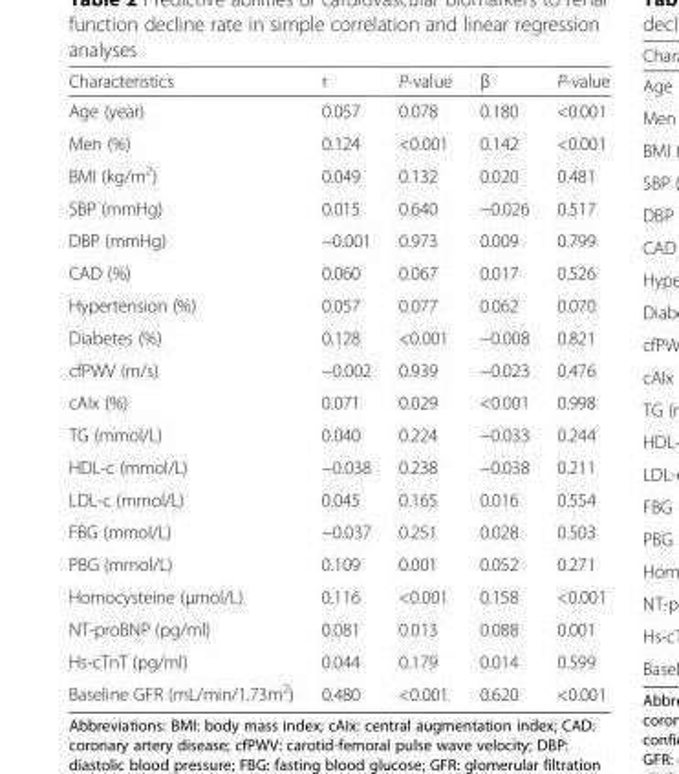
<table><thead><tr><td>Characteristics</td><td>r</td><td>P-value</td><td>β</td><td>P-value</td></tr></thead><tbody><tr><td>Age (year)</td><td>0.057</td><td>0.078</td><td>0.180</td><td>&lt;0.001</td></tr><tr><td>Men (%)</td><td>0.124</td><td>&lt;0.001</td><td>0.142</td><td>&lt;0.001</td></tr><tr><td>BMI (kg/m<sup>2</sup>)</td><td>0.049</td><td>0.132</td><td>0.020</td><td>0.481</td></tr><tr><td>SBP (mmHg)</td><td>0.015</td><td>0.640</td><td>−0.026</td><td>0.517</td></tr><tr><td>DBP (mmHg)</td><td>−0.001</td><td>0.973</td><td>0.009</td><td>0.799</td></tr><tr><td>CAD (%)</td><td>0.060</td><td>0.067</td><td>0.017</td><td>0.526</td></tr><tr><td>Hypertension (%)</td><td>0.057</td><td>0.077</td><td>0.062</td><td>0.070</td></tr><tr><td>Diabetes (%)</td><td>0.128</td><td>&lt;0.001</td><td>−0.008</td><td>0.821</td></tr><tr><td>cfPWV (m/s)</td><td>−0.002</td><td>0.939</td><td>−0.023</td><td>0.476</td></tr><tr><td>cAIx (%)</td><td>0.071</td><td>0.029</td><td>&lt;0.001</td><td>0.998</td></tr><tr><td>TG (mmol/L)</td><td>0.040</td><td>0.224</td><td>−0.033</td><td>0.244</td></tr><tr><td>HDL-c (mmol/L)</td><td>−0.038</td><td>0.238</td><td>−0.038</td><td>0.211</td></tr><tr><td>LDL-c (mmol/L)</td><td>0.045</td><td>0.165</td><td>0.016</td><td>0.554</td></tr><tr><td>FBG (mmol/L)</td><td>−0.037</td><td>0.251</td><td>0.028</td><td>0.503</td></tr><tr><td>PBG (mmol/L)</td><td>0.109</td><td>0.001</td><td>0.052</td><td>0.271</td></tr><tr><td>Homocysteine (μmol/L)</td><td>0.116</td><td>&lt;0.001</td><td>0.158</td><td>&lt;0.001</td></tr><tr><td>NT-proBNP (pg/ml)</td><td>0.081</td><td>0.013</td><td>0.088</td><td>0.001</td></tr><tr><td>Hs-cTnT (pg/ml)</td><td>0.044</td><td>0.179</td><td>0.014</td><td>0.599</td></tr><tr><td>Baseline GFR (mL/min/1.73m<sup>2</sup>)</td><td>0.480</td><td>&lt;0.001</td><td>0.620</td><td>&lt;0.001</td></tr></tbody></table>